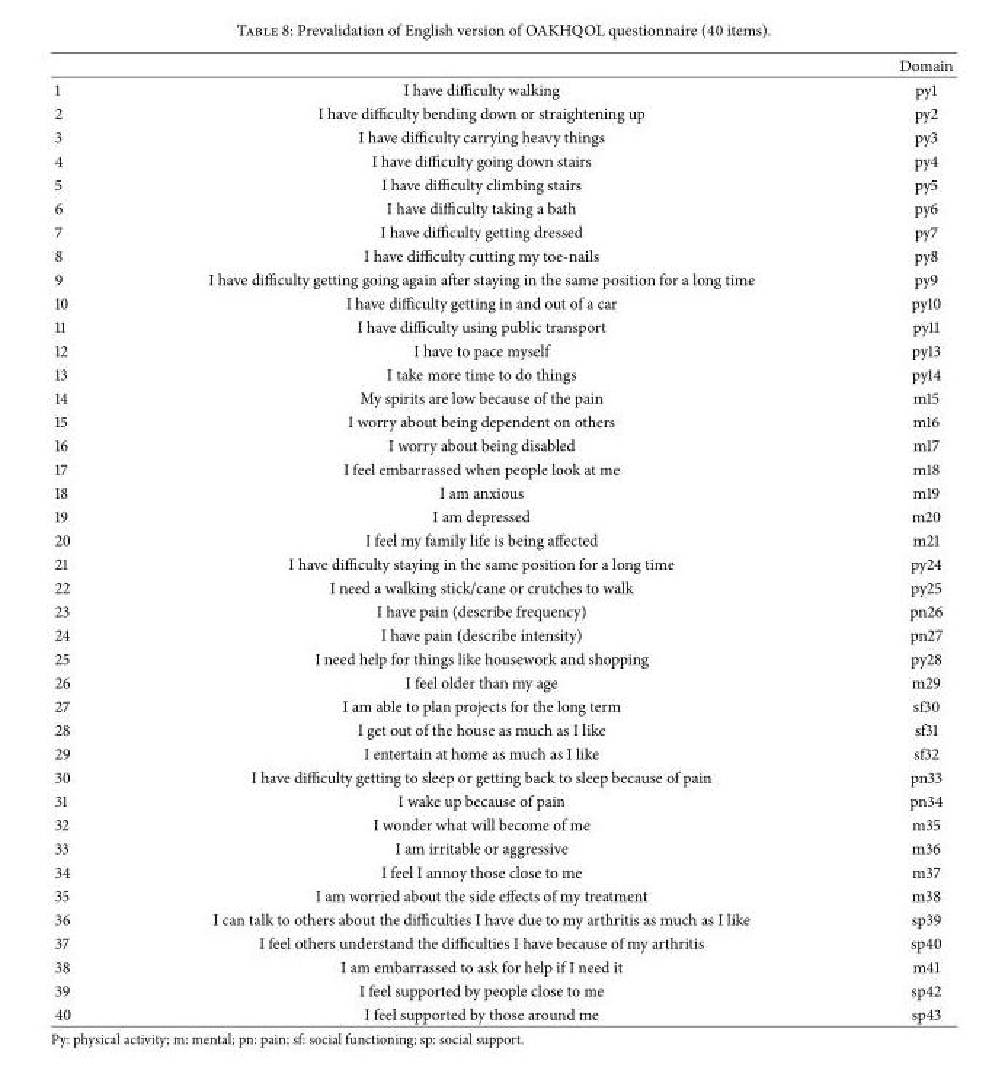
<table><thead><tr><td></td><td></td><td>Domain</td></tr></thead><tbody><tr><td>1</td><td>I have difficulty walking</td><td>py1</td></tr><tr><td>2</td><td>I have difficulty bending down or straightening up</td><td>py2</td></tr><tr><td>3</td><td>I have difficulty carrying heavy things</td><td>py3</td></tr><tr><td>4</td><td>I have difficulty going down stairs</td><td>py4</td></tr><tr><td>5</td><td>I have difficulty climbing stairs</td><td>py5</td></tr><tr><td>6</td><td>I have difficulty taking a bath</td><td>py6</td></tr><tr><td>7</td><td>I have difficulty getting dressed</td><td>py7</td></tr><tr><td>8</td><td>I have difficulty cutting my toe-nails</td><td>py8</td></tr><tr><td>9</td><td>I have difficulty getting going again after staying in the same position for a long time</td><td>py9</td></tr><tr><td>10</td><td>I have difficulty getting in and out of a car</td><td>py10</td></tr><tr><td>11</td><td>I have difficulty using public transport</td><td>py11</td></tr><tr><td>12</td><td>I have to pace myself</td><td>py13</td></tr><tr><td>13</td><td>I take more time to do things</td><td>py14</td></tr><tr><td>14</td><td>My spirits are low because of the pain</td><td>m15</td></tr><tr><td>15</td><td>I worry about being dependent on others</td><td>m16</td></tr><tr><td>16</td><td>I worry about being disabled</td><td>m17</td></tr><tr><td>17</td><td>I feel embarrassed when people look at me</td><td>m18</td></tr><tr><td>18</td><td>I am anxious</td><td>m19</td></tr><tr><td>19</td><td>I am depressed</td><td>m20</td></tr><tr><td>20</td><td>I feel my family life is being affected</td><td>m21</td></tr><tr><td>21</td><td>I have difficulty staying in the same position for a long time</td><td>py24</td></tr><tr><td>22</td><td>I need a walking stick/cane or crutches to walk</td><td>py25</td></tr><tr><td>23</td><td>I have pain (describe frequency)</td><td>pn26</td></tr><tr><td>24</td><td>I have pain (describe intensity)</td><td>pn27</td></tr><tr><td>25</td><td>I need help for things like housework and shopping</td><td>py28</td></tr><tr><td>26</td><td>I feel older than my age</td><td>m29</td></tr><tr><td>27</td><td>I am able to plan projects for the long term</td><td>sf30</td></tr><tr><td>28</td><td>I get out of the house as much as I like</td><td>sf31</td></tr><tr><td>29</td><td>I entertain at home as much as I like</td><td>sf32</td></tr><tr><td>30</td><td>I have difficulty getting to sleep or getting back to sleep because of pain</td><td>pn33</td></tr><tr><td>31</td><td>I wake up because of pain</td><td>pn34</td></tr><tr><td>32</td><td>I wonder what will become of me</td><td>m35</td></tr><tr><td>33</td><td>I am irritable or aggressive</td><td>m36</td></tr><tr><td>34</td><td>I feel I annoy those close to me</td><td>m37</td></tr><tr><td>35</td><td>I am worried about the side effects of my treatment</td><td>m38</td></tr><tr><td>36</td><td>I can talk to others about the difficulties I have due to my arthritis as much as I like</td><td>sp39</td></tr><tr><td>37</td><td>I feel others understand the difficulties I have because of my arthritis</td><td>sp40</td></tr><tr><td>38</td><td>I am embarrassed to ask for help if I need it</td><td>m41</td></tr><tr><td>39</td><td>I feel supported by people close to me</td><td>sp42</td></tr><tr><td>40</td><td>I feel supported by those around me</td><td>sp43</td></tr></tbody></table>